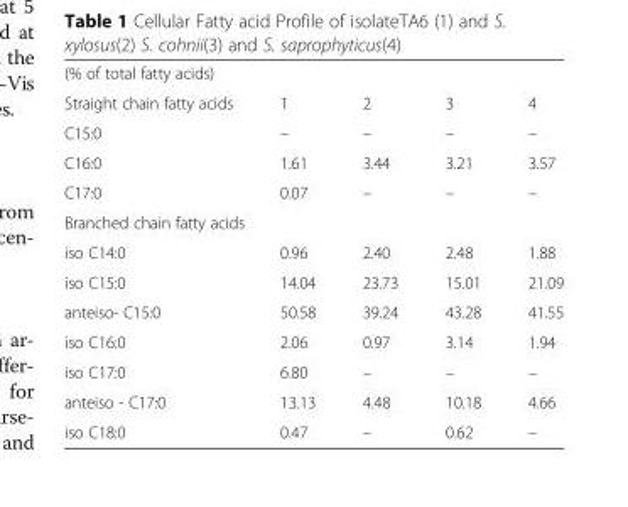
<table><tbody><tr><td colspan="5">(% of total fatty acids)</td></tr><tr><td>Straight chain fatty acids</td><td>1</td><td>2</td><td>3</td><td>4</td></tr><tr><td>C15:0</td><td>–</td><td>–</td><td>–</td><td>–</td></tr><tr><td>C16:0</td><td>1.61</td><td>3.44</td><td>3.21</td><td>3.57</td></tr><tr><td>C17:0</td><td>0.07</td><td>–</td><td>–</td><td>–</td></tr><tr><td colspan="5">Branched chain fatty acids</td></tr><tr><td>iso C14:0</td><td>0.96</td><td>2.40</td><td>2.48</td><td>1.88</td></tr><tr><td>iso C15:0</td><td>14.04</td><td>23.73</td><td>15.01</td><td>21.09</td></tr><tr><td>anteiso- C15:0</td><td>50.58</td><td>39.24</td><td>43.28</td><td>41.55</td></tr><tr><td>iso C16:0</td><td>2.06</td><td>0.97</td><td>3.14</td><td>1.94</td></tr><tr><td>iso C17:0</td><td>6.80</td><td>–</td><td>–</td><td>–</td></tr><tr><td>anteiso - C17:0</td><td>13.13</td><td>4.48</td><td>10.18</td><td>4.66</td></tr><tr><td>iso C18:0</td><td>0.47</td><td>–</td><td>0.62</td><td>–</td></tr></tbody></table>